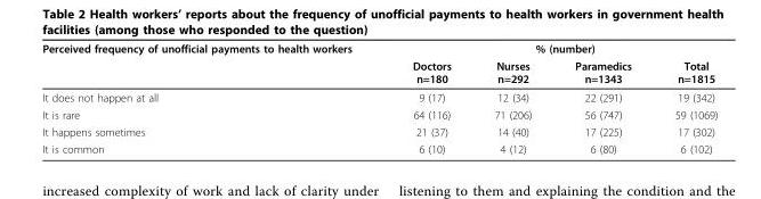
<table><thead><tr><td rowspan="2">Perceived frequency of unofficial payments to health workers</td><td colspan="4">% (number)</td></tr><tr><td>Doctors n=180</td><td>Nurses n=292</td><td>Paramedics n=1343</td><td>Total n=1815</td></tr></thead><tbody><tr><td>It does not happen at all</td><td>9 (17)</td><td>12 (34)</td><td>22 (291)</td><td>19 (342)</td></tr><tr><td>It is rare</td><td>64 (116)</td><td>71 (206)</td><td>56 (747)</td><td>59 (1069)</td></tr><tr><td>It happens sometimes</td><td>21 (37)</td><td>14 (40)</td><td>17 (225)</td><td>17 (302)</td></tr><tr><td>It is common</td><td>6 (10)</td><td>4 (12)</td><td>6 (80)</td><td>6 (102)</td></tr></tbody></table>